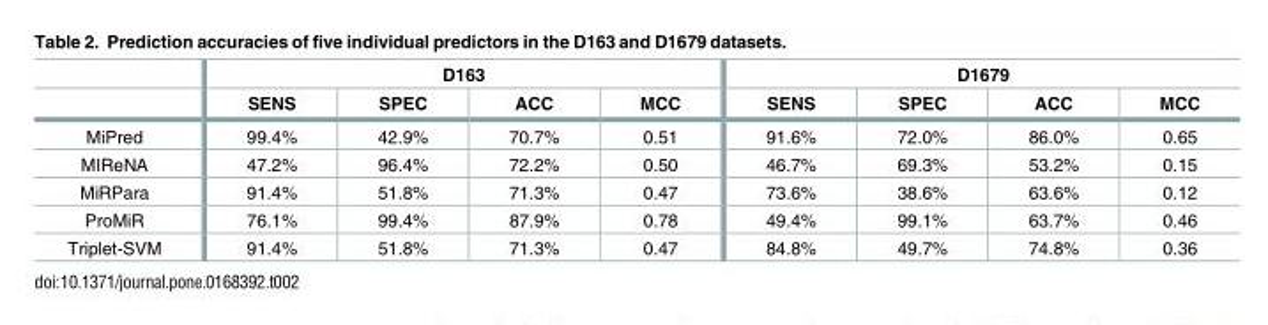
<table><thead><tr><td rowspan="2"></td><td colspan="4">D163</td><td colspan="4">D1679</td></tr><tr><td>SENS</td><td>SPEC</td><td>ACC</td><td>MCC</td><td>SENS</td><td>SPEC</td><td>ACC</td><td>MCC</td></tr></thead><tbody><tr><td>MiPred</td><td>99.4%</td><td>42.9%</td><td>70.7%</td><td>0.51</td><td>91.6%</td><td>72.0%</td><td>86.0%</td><td>0.65</td></tr><tr><td>MIReNA</td><td>47.2%</td><td>96.4%</td><td>72.2%</td><td>0.50</td><td>46.7%</td><td>69.3%</td><td>53.2%</td><td>0.15</td></tr><tr><td>MiRPara</td><td>91.4%</td><td>51.8%</td><td>71.3%</td><td>0.47</td><td>73.6%</td><td>38.6%</td><td>63.6%</td><td>0.12</td></tr><tr><td>ProMiR</td><td>76.1%</td><td>99.4%</td><td>87.9%</td><td>0.78</td><td>49.4%</td><td>99.1%</td><td>63.7%</td><td>0.46</td></tr><tr><td>Triplet-SVM</td><td>91.4%</td><td>51.8%</td><td>71.3%</td><td>0.47</td><td>84.8%</td><td>49.7%</td><td>74.8%</td><td>0.36</td></tr></tbody></table>